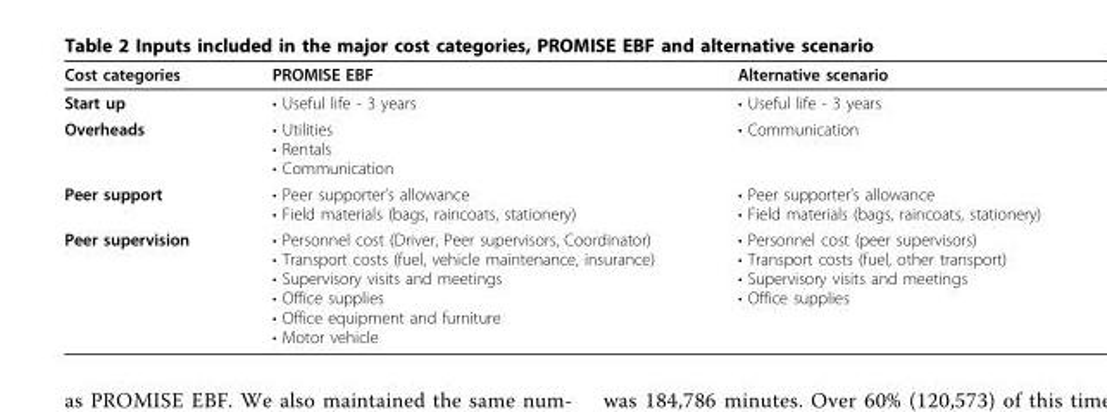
<table><thead><tr><td>Cost categories</td><td>PROMISE EBF</td><td>Alternative scenario</td></tr></thead><tbody><tr><td>Start up</td><td>• Useful life - 3 years</td><td>• Useful life - 3 years</td></tr><tr><td>Overheads</td><td>• Utilities • Rentals • Communication</td><td>• Communication</td></tr><tr><td>Peer support</td><td>• Peer supporter’s allowance • Field materials (bags, raincoats, stationery)</td><td>• Peer supporter’s allowance • Field materials (bags, raincoats, stationery)</td></tr><tr><td>Peer supervision</td><td>• Personnel cost (Driver, Peer supervisors, Coordinator) • Transport costs (fuel, vehicle maintenance, insurance) • Supervisory visits and meetings • Office supplies • Office equipment and furniture • Motor vehicle</td><td>• Personnel cost (peer supervisors) • Transport costs (fuel, other transport) • Supervisory visits and meetings • Office supplies</td></tr></tbody></table>